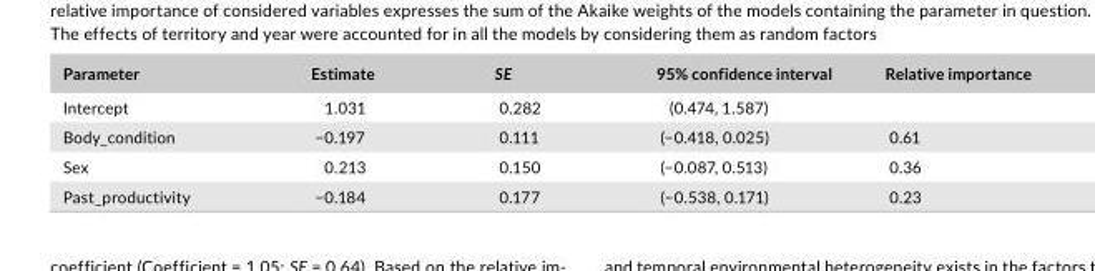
<table><thead><tr><td>Parameter</td><td>Estimate</td><td>SE</td><td>95% confidence interval</td><td>Relative importance</td></tr></thead><tbody><tr><td>Intercept</td><td>1.031</td><td>0.282</td><td>(0.474, 1.587)</td><td></td></tr><tr><td>Body_condition</td><td>−0.197</td><td>0.111</td><td>(−0.418, 0.025)</td><td>0.61</td></tr><tr><td>Sex</td><td>0.213</td><td>0.150</td><td>(−0.087, 0.513)</td><td>0.36</td></tr><tr><td>Past_productivity</td><td>−0.184</td><td>0.177</td><td>(−0.538, 0.171)</td><td>0.23</td></tr></tbody></table>